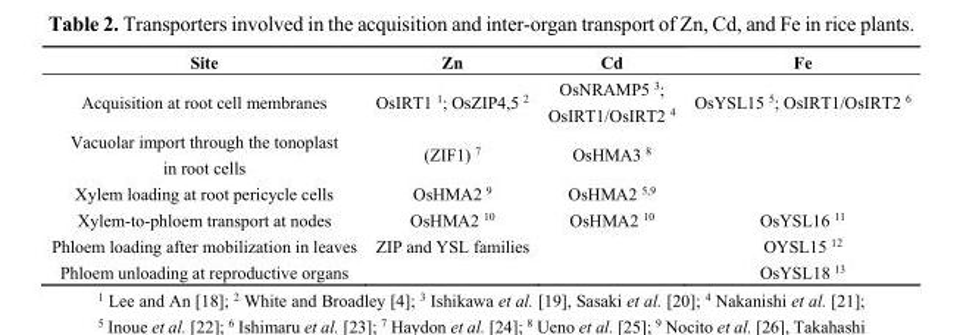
<table><thead><tr><td>Site</td><td>Zn</td><td>Cd</td><td>Fe</td></tr></thead><tbody><tr><td>Acquisition at root cell membranes</td><td>OsIRT1 <sup>1</sup>; OsZIP4,5 <sup>2</sup></td><td>OsNRAMP5 <sup>3</sup>; OsIRT1/OsIRT2 <sup>4</sup></td><td>OsYSL15 <sup>5</sup>; OsIRT1/OsIRT2 <sup>6</sup></td></tr><tr><td>Vacuolar import through the tonoplast in root cells</td><td>(ZIF1) <sup>7</sup></td><td>OsHMA3 <sup>8</sup></td><td></td></tr><tr><td>Xylem loading at root pericycle cells</td><td>OsHMA2 <sup>9</sup></td><td>OsHMA2 <sup>5,9</sup></td><td></td></tr><tr><td>Xylem-to-phloem transport at nodes</td><td>OsHMA2 <sup>10</sup></td><td>OsHMA2 <sup>10</sup></td><td>OsYSL16 <sup>11</sup></td></tr><tr><td>Phloem loading after mobilization in leaves</td><td>ZIP and YSL families</td><td></td><td>OYSL15 <sup>12</sup></td></tr><tr><td>Phloem unloading at reproductive organs</td><td></td><td></td><td>OsYSL18 <sup>13</sup></td></tr></tbody></table>